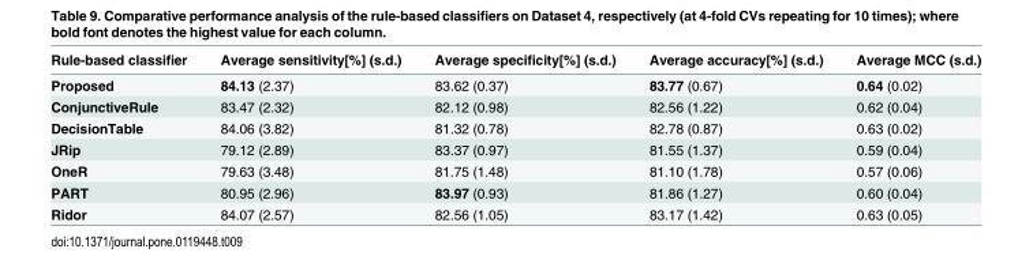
<table><thead><tr><td>Rule-based classifier</td><td>Average sensitivity[%] (s.d.)</td><td>Average specificity[%] (s.d.)</td><td>Average accuracy[%] (s.d.)</td><td>Average MCC (s.d.)</td></tr></thead><tbody><tr><td>Proposed</td><td>84.13 (2.37)</td><td>83.62 (0.37)</td><td>83.77 (0.67)</td><td>0.64 (0.02)</td></tr><tr><td>ConjunctiveRule</td><td>83.47 (2.32)</td><td>82.12 (0.98)</td><td>82.56 (1.22)</td><td>0.62 (0.04)</td></tr><tr><td>DecisionTable</td><td>84.06 (3.82)</td><td>81.32 (0.78)</td><td>82.78 (0.87)</td><td>0.63 (0.02)</td></tr><tr><td>JRip</td><td>79.12 (2.89)</td><td>83.37 (0.97)</td><td>81.55 (1.37)</td><td>0.59 (0.04)</td></tr><tr><td>OneR</td><td>79.63 (3.48)</td><td>81.75 (1.48)</td><td>81.10 (1.78)</td><td>0.57 (0.06)</td></tr><tr><td>PART</td><td>80.95 (2.96)</td><td>83.97 (0.93)</td><td>81.86 (1.27)</td><td>0.60 (0.04)</td></tr><tr><td>Ridor</td><td>84.07 (2.57)</td><td>82.56 (1.05)</td><td>83.17 (1.42)</td><td>0.63 (0.05)</td></tr></tbody></table>